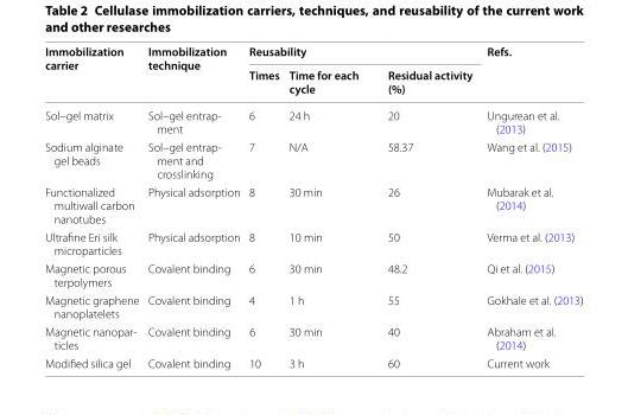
<table><thead><tr><td rowspan="2">Immobilization carrier</td><td rowspan="2">Immobilization technique</td><td colspan="3">Reusability</td><td rowspan="2">Refs.</td></tr><tr><td>Times</td><td>Time for each cycle</td><td>Residual activity (%)</td></tr></thead><tbody><tr><td>Sol–gel matrix</td><td>Sol–gel entrap- ment</td><td>6</td><td>24 h</td><td>20</td><td>Ungurean et al. (2013)</td></tr><tr><td>Sodium alginate gel beads</td><td>Sol–gel entrap- ment and crosslinking</td><td>7</td><td>N/A</td><td>58.37</td><td>Wang et al. (2015)</td></tr><tr><td>Functionalized multiwall carbon nanotubes</td><td>Physical adsorption</td><td>8</td><td>30 min</td><td>26</td><td>Mubarak et al. (2014)</td></tr><tr><td>Ultrafine Eri silk microparticles</td><td>Physical adsorption</td><td>8</td><td>10 min</td><td>50</td><td>Verma et al. (2013)</td></tr><tr><td>Magnetic porous terpolymers</td><td>Covalent binding</td><td>6</td><td>30 min</td><td>48.2</td><td>Qi et al. (2015)</td></tr><tr><td>Magnetic graphene nanoplatelets</td><td>Covalent binding</td><td>4</td><td>1 h</td><td>55</td><td>Gokhale et al. (2013)</td></tr><tr><td>Magnetic nanopar- ticles</td><td>Covalent binding</td><td>6</td><td>30 min</td><td>40</td><td>Abraham et al. (2014)</td></tr><tr><td>Modified silica gel</td><td>Covalent binding</td><td>10</td><td>3 h</td><td>60</td><td>Current work</td></tr></tbody></table>